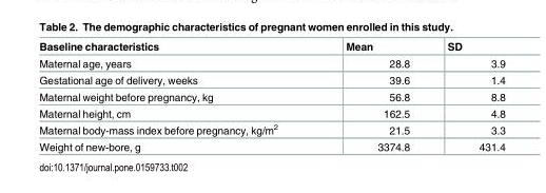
<table><thead><tr><td>Baseline characteristics</td><td>Mean</td><td>SD</td></tr></thead><tbody><tr><td>Maternal age, years</td><td>28.8</td><td>3.9</td></tr><tr><td>Gestational age of delivery, weeks</td><td>39.6</td><td>1.4</td></tr><tr><td>Maternal weight before pregnancy, kg</td><td>56.8</td><td>8.8</td></tr><tr><td>Maternal height, cm</td><td>162.5</td><td>4.8</td></tr><tr><td>Maternal body-mass index before pregnancy, kg/m<sup>2</sup></td><td>21.5</td><td>3.3</td></tr><tr><td>Weight of new-bore, g</td><td>3374.8</td><td>431.4</td></tr></tbody></table>